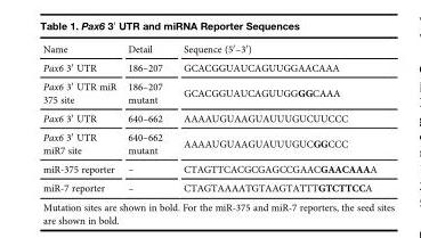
<table><thead><tr><td>Name</td><td>Detail</td><td>Sequence (5′–3′)</td></tr></thead><tbody><tr><td>Pax6 3′ UTR</td><td>186–207</td><td>GCACGGUAUCAGUUGGAACAAA</td></tr><tr><td>Pax6 3′ UTR miR 375 site</td><td>186–207 mutant</td><td>GCACGGUAUCAGUUGGGGCAAA</td></tr><tr><td>Pax6 3′ UTR</td><td>640–662</td><td>AAAAUGUAAGUAUUUGUCUUCCC</td></tr><tr><td>Pax6 3′ UTR miR7 site</td><td>640–662 mutant</td><td>AAAAUGUAAGUAUUUGUCGGCCC</td></tr><tr><td>miR-375 reporter</td><td>–</td><td>CTAGTTCACGCGAGCCGAACGAACAAAA</td></tr><tr><td>miR-7 reporter</td><td>–</td><td>CTAGTAAAATGTAAGTATTTGTCTTCCA</td></tr></tbody></table>